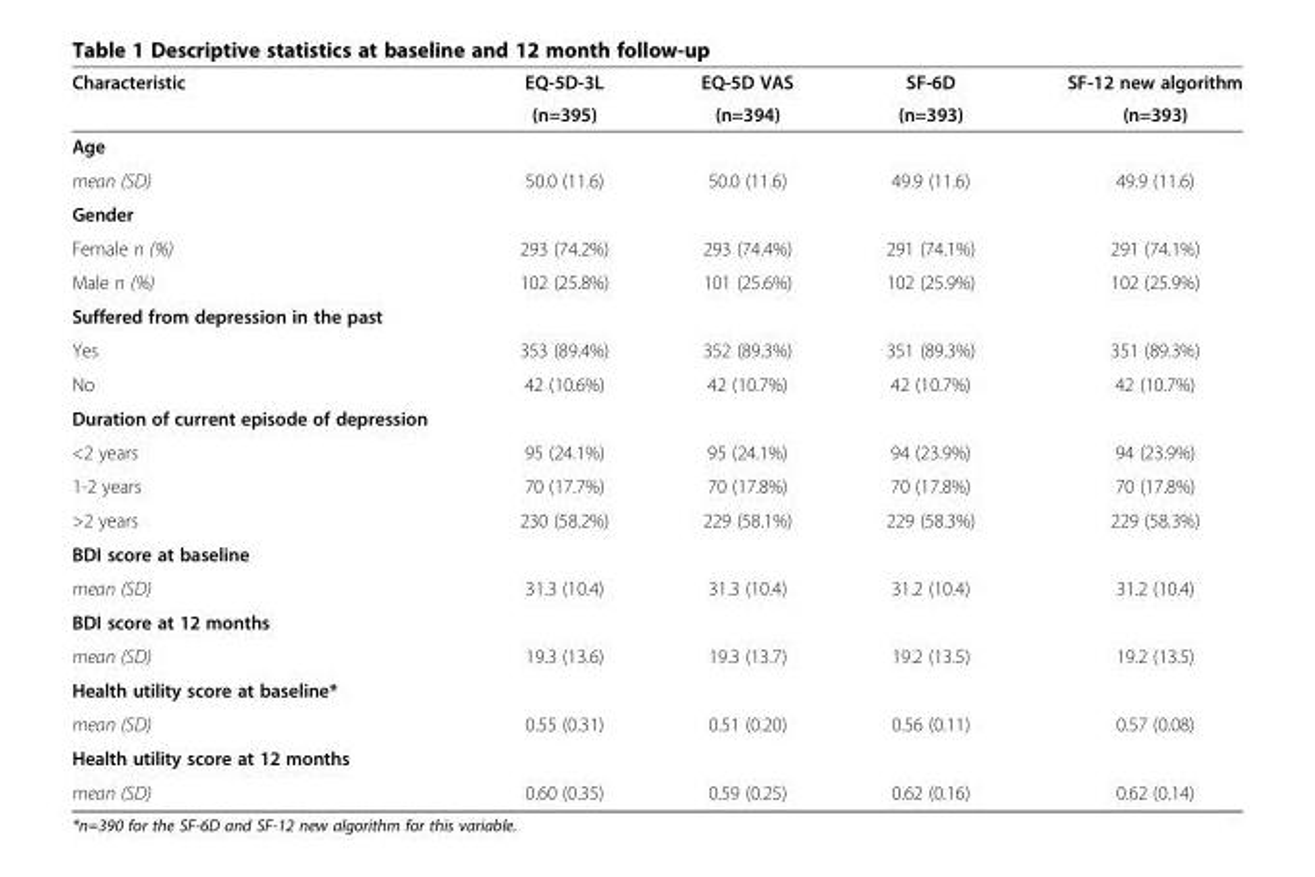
<table><thead><tr><td rowspan="2">Characteristic</td><td rowspan="2">EQ-5D-3L (n=395)</td><td rowspan="2">EQ-5D VAS (n=394)</td><td rowspan="2">SF-6D (n=393)</td><td rowspan="2">SF-12 new algorithm (n=393)</td></tr><tr></tr></thead><tbody><tr><td colspan="5">Age</td></tr><tr><td>mean (SD)</td><td>50.0 (11.6)</td><td>50.0 (11.6)</td><td>49.9 (11.6)</td><td>49.9 (11.6)</td></tr><tr><td colspan="5">Gender</td></tr><tr><td>Female n (%)</td><td>293 (74.2%)</td><td>293 (74.4%)</td><td>291 (74.1%)</td><td>291 (74.1%)</td></tr><tr><td>Male n (%)</td><td>102 (25.8%)</td><td>101 (25.6%)</td><td>102 (25.9%)</td><td>102 (25.9%)</td></tr><tr><td colspan="5">Suffered from depression in the past</td></tr><tr><td>Yes</td><td>353 (89.4%)</td><td>352 (89.3%)</td><td>351 (89.3%)</td><td>351 (89.3%)</td></tr><tr><td>No</td><td>42 (10.6%)</td><td>42 (10.7%)</td><td>42 (10.7%)</td><td>42 (10.7%)</td></tr><tr><td colspan="5">Duration of current episode of depression</td></tr><tr><td>&lt;2 years</td><td>95 (24.1%)</td><td>95 (24.1%)</td><td>94 (23.9%)</td><td>94 (23.9%)</td></tr><tr><td>1-2 years</td><td>70 (17.7%)</td><td>70 (17.8%)</td><td>70 (17.8%)</td><td>70 (17.8%)</td></tr><tr><td>&gt;2 years</td><td>230 (58.2%)</td><td>229 (58.1%)</td><td>229 (58.3%)</td><td>229 (58.3%)</td></tr><tr><td colspan="5">BDI score at baseline</td></tr><tr><td>mean (SD)</td><td>31.3 (10.4)</td><td>31.3 (10.4)</td><td>31.2 (10.4)</td><td>31.2 (10.4)</td></tr><tr><td colspan="5">BDI score at 12 months</td></tr><tr><td>mean (SD)</td><td>19.3 (13.6)</td><td>19.3 (13.7)</td><td>19.2 (13.5)</td><td>19.2 (13.5)</td></tr><tr><td colspan="5">Health utility score at baseline*</td></tr><tr><td>mean (SD)</td><td>0.55 (0.31)</td><td>0.51 (0.20)</td><td>0.56 (0.11)</td><td>0.57 (0.08)</td></tr><tr><td colspan="5">Health utility score at 12 months</td></tr><tr><td>mean (SD)</td><td>0.60 (0.35)</td><td>0.59 (0.25)</td><td>0.62 (0.16)</td><td>0.62 (0.14)</td></tr></tbody></table>